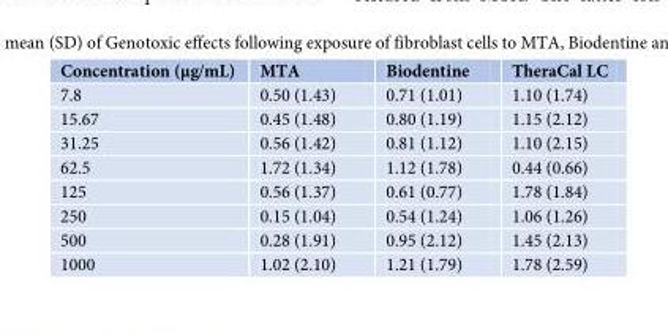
<table><thead><tr><td>Concentration (µg/mL)</td><td>MTA</td><td>Biodentine</td><td>TheraCal LC</td></tr></thead><tbody><tr><td>7.8</td><td>0.50 (1.43)</td><td>0.71 (1.01)</td><td>1.10 (1.74)</td></tr><tr><td>15.67</td><td>0.45 (1.48)</td><td>0.80 (1.19)</td><td>1.15 (2.12)</td></tr><tr><td>31.25</td><td>0.56 (1.42)</td><td>0.81 (1.12)</td><td>1.10 (2.15)</td></tr><tr><td>62.5</td><td>1.72 (1.34)</td><td>1.12 (1.78)</td><td>0.44 (0.66)</td></tr><tr><td>125</td><td>0.56 (1.37)</td><td>0.61 (0.77)</td><td>1.78 (1.84)</td></tr><tr><td>250</td><td>0.15 (1.04)</td><td>0.54 (1.24)</td><td>1.06 (1.26)</td></tr><tr><td>500</td><td>0.28 (1.91)</td><td>0.95 (2.12)</td><td>1.45 (2.13)</td></tr><tr><td>1000</td><td>1.02 (2.10)</td><td>1.21 (1.79)</td><td>1.78 (2.59)</td></tr></tbody></table>